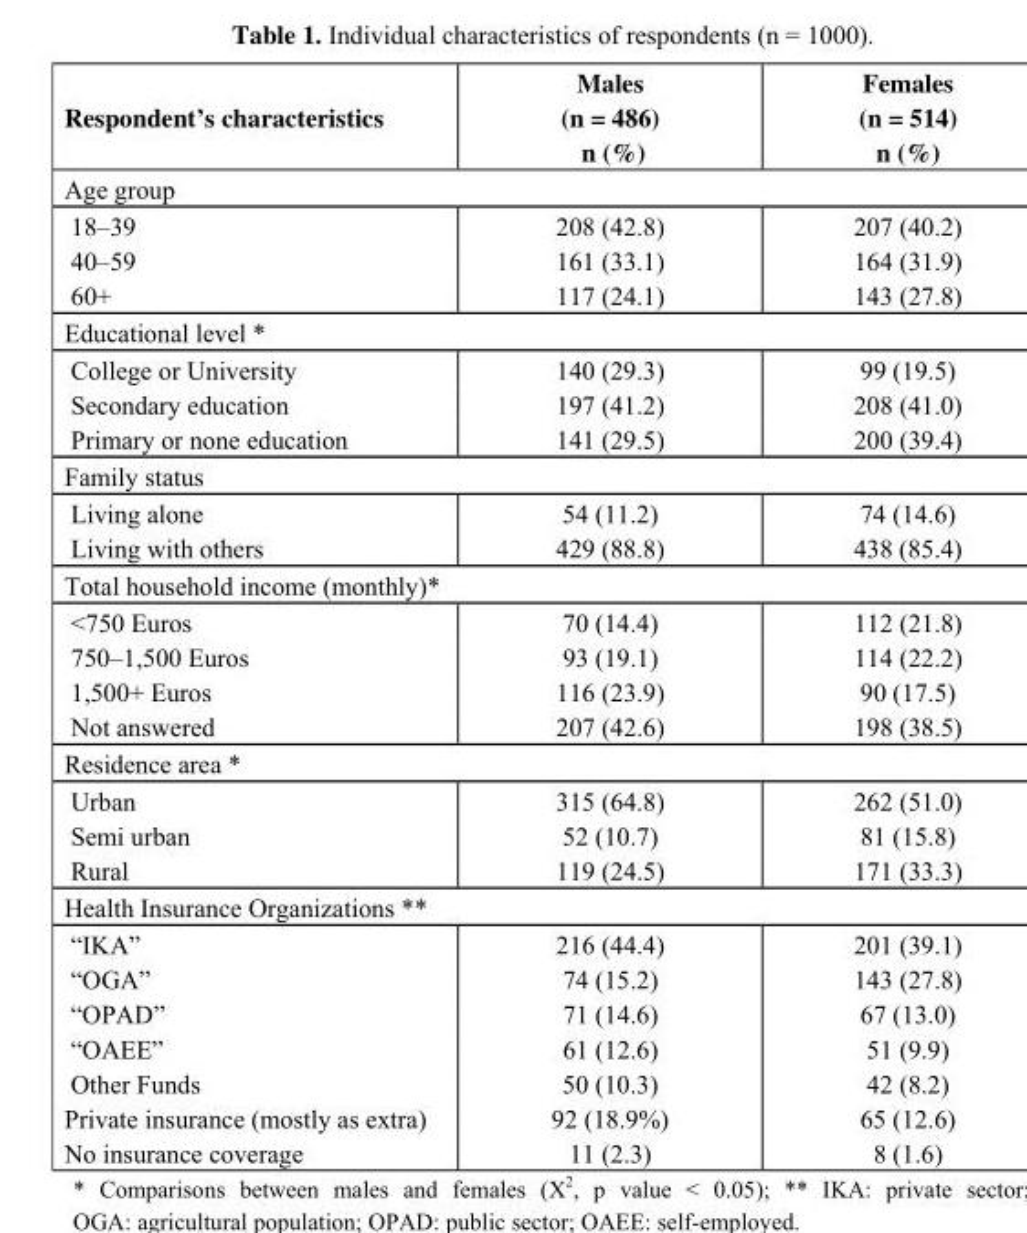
<table><thead><tr><td>Respondent’s characteristics</td><td>Males (n = 486) n (%)</td><td>Females (n = 514) n (%)</td></tr></thead><tbody><tr><td colspan="3">Age group</td></tr><tr><td>18–39</td><td>208 (42.8)</td><td>207 (40.2)</td></tr><tr><td>40–59</td><td>161 (33.1)</td><td>164 (31.9)</td></tr><tr><td>60+</td><td>117 (24.1)</td><td>143 (27.8)</td></tr><tr><td colspan="3">Educational level *</td></tr><tr><td>College or University</td><td>140 (29.3)</td><td>99 (19.5)</td></tr><tr><td>Secondary education</td><td>197 (41.2)</td><td>208 (41.0)</td></tr><tr><td>Primary or none education</td><td>141 (29.5)</td><td>200 (39.4)</td></tr><tr><td colspan="3">Family status</td></tr><tr><td>Living alone</td><td>54 (11.2)</td><td>74 (14.6)</td></tr><tr><td>Living with others</td><td>429 (88.8)</td><td>438 (85.4)</td></tr><tr><td colspan="3">Total household income (monthly)*</td></tr><tr><td>&lt;750 Euros</td><td>70 (14.4)</td><td>112 (21.8)</td></tr><tr><td>750–1,500 Euros</td><td>93 (19.1)</td><td>114 (22.2)</td></tr><tr><td>1,500+ Euros</td><td>116 (23.9)</td><td>90 (17.5)</td></tr><tr><td>Not answered</td><td>207 (42.6)</td><td>198 (38.5)</td></tr><tr><td colspan="3">Residence area *</td></tr><tr><td>Urban</td><td>315 (64.8)</td><td>262 (51.0)</td></tr><tr><td>Semi urban</td><td>52 (10.7)</td><td>81 (15.8)</td></tr><tr><td>Rural</td><td>119 (24.5)</td><td>171 (33.3)</td></tr><tr><td colspan="3">Health Insurance Organizations **</td></tr><tr><td>“IKA”</td><td>216 (44.4)</td><td>201 (39.1)</td></tr><tr><td>“OGA”</td><td>74 (15.2)</td><td>143 (27.8)</td></tr><tr><td>“OPAD”</td><td>71 (14.6)</td><td>67 (13.0)</td></tr><tr><td>“OAEE”</td><td>61 (12.6)</td><td>51 (9.9)</td></tr><tr><td>Other Funds</td><td>50 (10.3)</td><td>42 (8.2)</td></tr><tr><td>Private insurance (mostly as extra)</td><td>92 (18.9%)</td><td>65 (12.6)</td></tr><tr><td>No insurance coverage</td><td>11 (2.3)</td><td>8 (1.6)</td></tr></tbody></table>